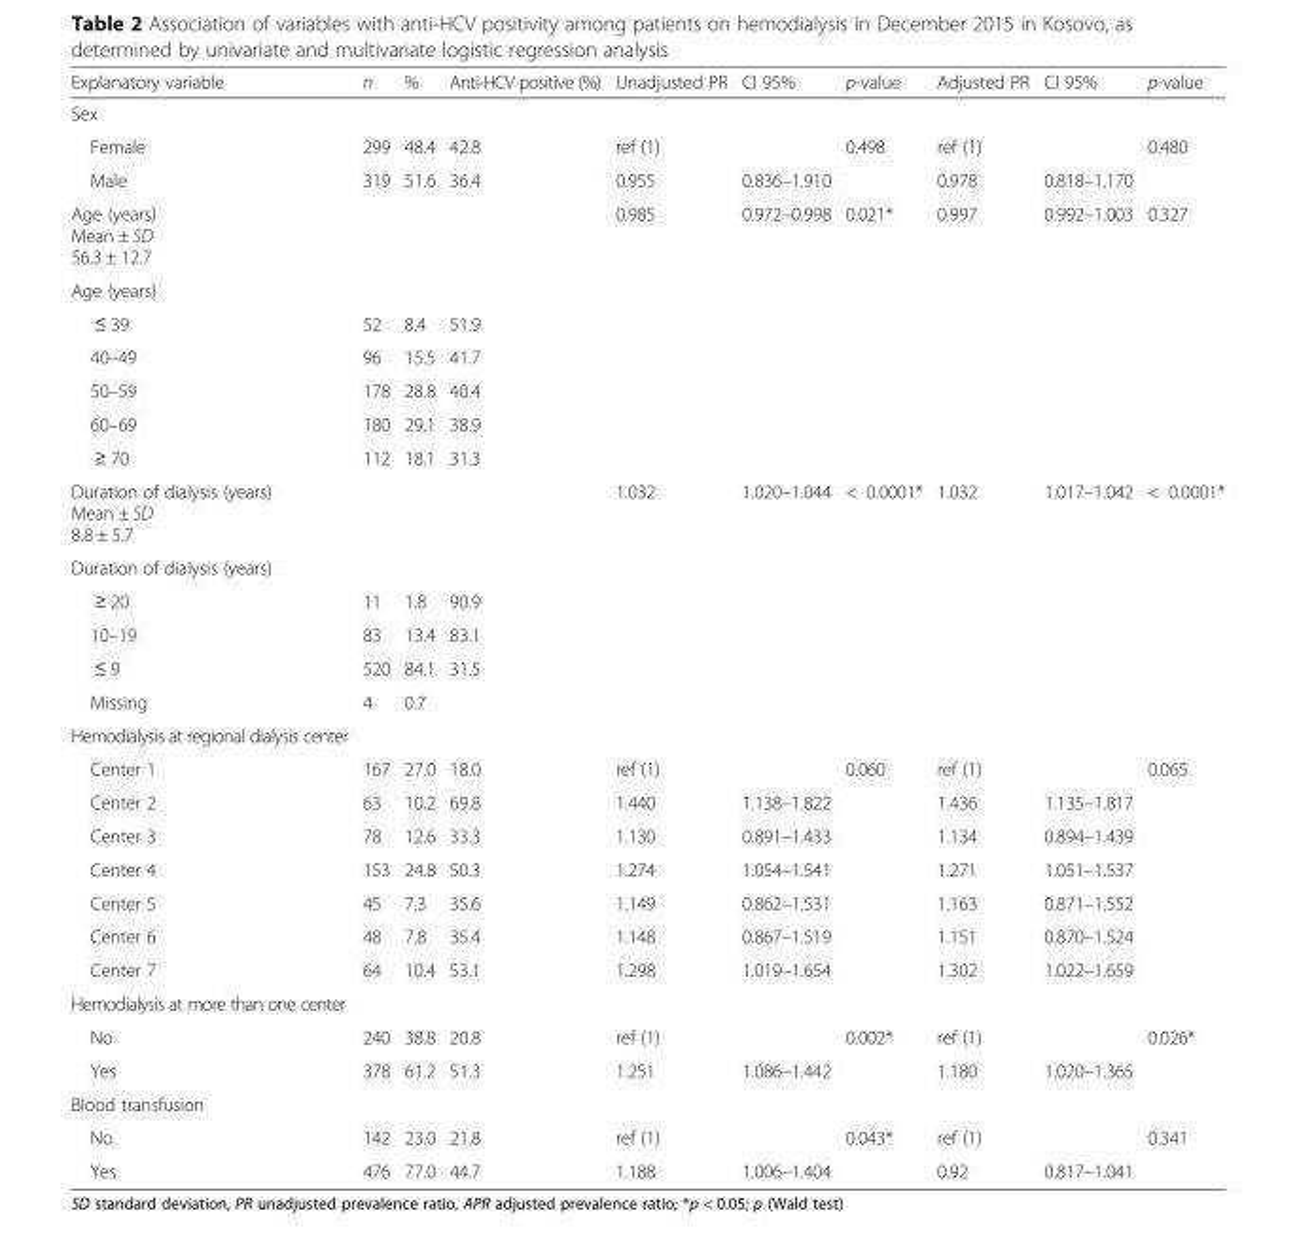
<table><thead><tr><td>Explanatory variable</td><td>n</td><td>%</td><td>Anti-HCV positive (%)</td><td>Unadjusted PR</td><td>CI 95%</td><td>p-value</td><td>Adjusted PR</td><td>CI 95%</td><td>p-value</td></tr></thead><tbody><tr><td colspan="10">Sex</td></tr><tr><td>Female</td><td>299</td><td>48.4</td><td>42.8</td><td>ref (1)</td><td></td><td>0.498</td><td>ref (1)</td><td></td><td>0.480</td></tr><tr><td>Male</td><td>319</td><td>51.6</td><td>36.4</td><td>0.955</td><td>0.836–1.910</td><td></td><td>0.978</td><td>0.818–1.170</td><td></td></tr><tr><td>Age (years) Mean ± SD 56.3 ± 12.7</td><td></td><td></td><td></td><td>0.985</td><td>0.972–0.998</td><td>0.021*</td><td>0.997</td><td>0.992–1.003</td><td>0.327</td></tr><tr><td colspan="10">Age (years)</td></tr><tr><td>≤ 39</td><td>52</td><td>8.4</td><td>51.9</td><td rowspan="5"></td><td rowspan="5"></td><td rowspan="5"></td><td rowspan="5"></td><td rowspan="5"></td><td rowspan="5"></td></tr><tr><td>40–49</td><td>96</td><td>15.5</td><td>41.7</td></tr><tr><td>50–59</td><td>178</td><td>28.8</td><td>40.4</td></tr><tr><td>60–69</td><td>180</td><td>29.1</td><td>38.9</td></tr><tr><td>≥ 70</td><td>112</td><td>18.1</td><td>31.3</td></tr><tr><td>Duration of dialysis (years) Mean ± SD 8.8 ± 5.7</td><td></td><td></td><td></td><td>1.032</td><td>1.020–1.044</td><td>&lt; 0.0001*</td><td>1.032</td><td>1.017–1.042</td><td>&lt; 0.0001*</td></tr><tr><td colspan="10">Duration of dialysis (years)</td></tr><tr><td>≥ 20</td><td>11</td><td>1.8</td><td>90.9</td><td rowspan="4"></td><td rowspan="4"></td><td rowspan="4"></td><td rowspan="4"></td><td rowspan="4"></td><td rowspan="4"></td></tr><tr><td>10–19</td><td>83</td><td>13.4</td><td>83.1</td></tr><tr><td>≤ 9</td><td>520</td><td>84.1</td><td>31.5</td></tr><tr><td>Missing</td><td>4</td><td>0.7</td><td></td></tr><tr><td colspan="10">Hemodialysis at regional dialysis center</td></tr><tr><td>Center 1</td><td>167</td><td>27.0</td><td>18.0</td><td>ref (1)</td><td></td><td>0.060</td><td>ref (1)</td><td></td><td>0.065</td></tr><tr><td>Center 2</td><td>63</td><td>10.2</td><td>69.8</td><td>1.440</td><td>1.138–1.822</td><td rowspan="6"></td><td>1.436</td><td>1.135–1.817</td><td rowspan="6"></td></tr><tr><td>Center 3</td><td>78</td><td>12.6</td><td>33.3</td><td>1.130</td><td>0.891–1.433</td><td>1.134</td><td>0.894–1.439</td></tr><tr><td>Center 4</td><td>153</td><td>24.8</td><td>50.3</td><td>1.274</td><td>1.054–1.541</td><td>1.271</td><td>1.051–1.537</td></tr><tr><td>Center 5</td><td>45</td><td>7.3</td><td>35.6</td><td>1.149</td><td>0.862–1.531</td><td>1.163</td><td>0.871–1.552</td></tr><tr><td>Center 6</td><td>48</td><td>7.8</td><td>35.4</td><td>1.148</td><td>0.867–1.519</td><td>1.151</td><td>0.870–1.524</td></tr><tr><td>Center 7</td><td>64</td><td>10.4</td><td>53.1</td><td>1.298</td><td>1.019–1.654</td><td>1.302</td><td>1.022–1.659</td></tr><tr><td colspan="10">Hemodialysis at more than one center</td></tr><tr><td>No</td><td>240</td><td>38.8</td><td>20.8</td><td>ref (1)</td><td></td><td>0.002*</td><td>ref (1)</td><td></td><td>0.026*</td></tr><tr><td>Yes</td><td>378</td><td>61.2</td><td>51.3</td><td>1.251</td><td>1.086–1.442</td><td></td><td>1.180</td><td>1.020–1.365</td><td></td></tr><tr><td colspan="10">Blood transfusion</td></tr><tr><td>No</td><td>142</td><td>23.0</td><td>21.8</td><td>ref (1)</td><td></td><td>0.043*</td><td>ref (1)</td><td></td><td>0.341</td></tr><tr><td>Yes</td><td>476</td><td>77.0</td><td>44.7</td><td>1.188</td><td>1.006–1.404</td><td></td><td>0.92</td><td>0.817–1.041</td><td></td></tr></tbody></table>